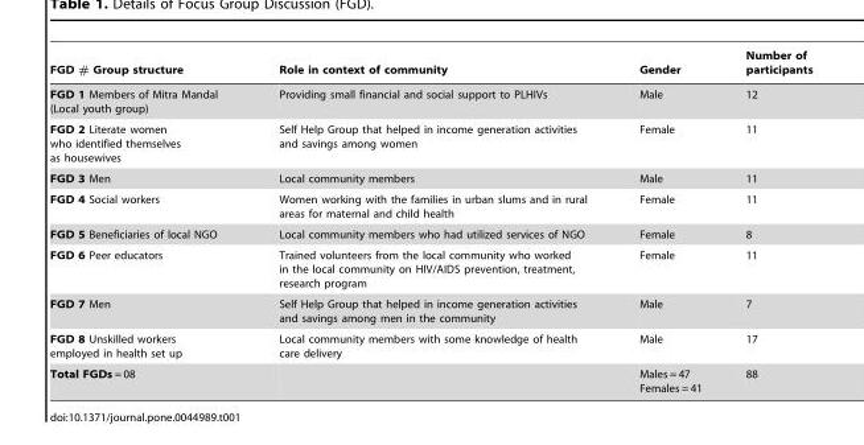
<table><thead><tr><td>FGD # Group structure</td><td>Role in context of community</td><td>Gender</td><td>Number of participants</td></tr></thead><tbody><tr><td>FGD 1 Members of Mitra Mandal (Local youth group)</td><td>Providing small financial and social support to PLHIVs</td><td>Male</td><td>12</td></tr><tr><td>FGD 2 Literate women who identified themselves as housewives</td><td>Self Help Group that helped in income generation activities and savings among women</td><td>Female</td><td>11</td></tr><tr><td>FGD 3 Men</td><td>Local community members</td><td>Male</td><td>11</td></tr><tr><td>FGD 4 Social workers</td><td>Women working with the families in urban slums and in rural areas for maternal and child health</td><td>Female</td><td>11</td></tr><tr><td>FGD 5 Beneficiaries of local NGO</td><td>Local community members who had utilized services of NGO</td><td>Female</td><td>8</td></tr><tr><td>FGD 6 Peer educators</td><td>Trained volunteers from the local community who worked in the local community on HIV/AIDS prevention, treatment, research program</td><td>Female</td><td>11</td></tr><tr><td>FGD 7 Men</td><td>Self Help Group that helped in income generation activities and savings among men in the community</td><td>Male</td><td>7</td></tr><tr><td>FGD 8 Unskilled workers employed in health set up</td><td>Local community members with some knowledge of health care delivery</td><td>Male</td><td>17</td></tr><tr><td>Total FGDs = 08</td><td></td><td>Males = 47 Females = 41</td><td>88</td></tr></tbody></table>